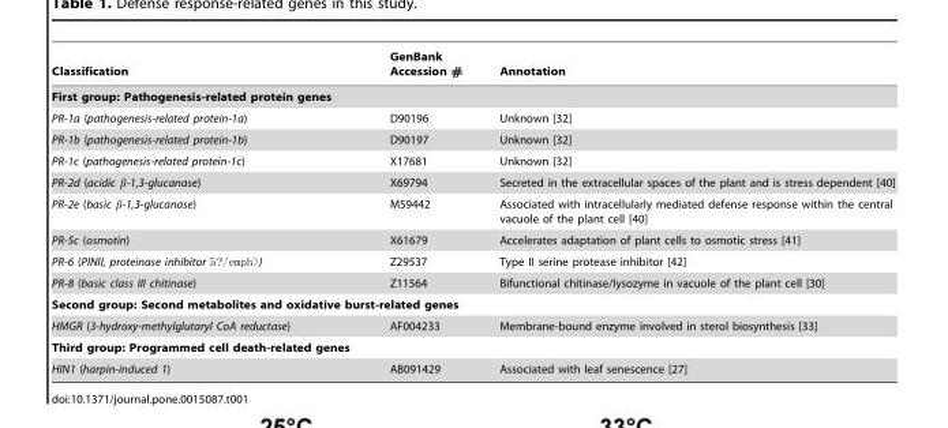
<table><thead><tr><td>Classification</td><td>GenBank Accession #</td><td>Annotation</td></tr></thead><tbody><tr><td colspan="3">First group: Pathogenesis-related protein genes</td></tr><tr><td>PR-1a (pathogenesis-related protein-1a)</td><td>D90196</td><td>Unknown [32]</td></tr><tr><td>PR-1b (pathogenesis-related protein-1b)</td><td>D90197</td><td>Unknown [32]</td></tr><tr><td>PR-1c (pathogenesis-related protein-1c)</td><td>X17681</td><td>Unknown [32]</td></tr><tr><td>PR-2d (acidic β-1,3-glucanase)</td><td>X69794</td><td>Secreted in the extracellular spaces of the plant and is stress dependent [40]</td></tr><tr><td>PR-2e (basic β-1,3-glucanase)</td><td>M59442</td><td>Associated with intracellularly mediated defense response within the central vacuole of the plant cell [40]</td></tr><tr><td>PR-5c (osmotin)</td><td>X61679</td><td>Accelerates adaptation of plant cells to osmotic stress [41]</td></tr><tr><td>PR-6 (PINII, proteinase inhibitor a˜?/emph&gt;)</td><td>Z29537</td><td>Type II serine protease inhibitor [42]</td></tr><tr><td>PR-8 (basic class III chitinase)</td><td>Z11564</td><td>Bifunctional chitinase/lysozyme in vacuole of the plant cell [30]</td></tr><tr><td colspan="3">Second group: Second metabolites and oxidative burst-related genes</td></tr><tr><td>HMGR (3-hydroxy-methylglutaryl CoA reductase)</td><td>AF004233</td><td>Membrane-bound enzyme involved in sterol biosynthesis [33]</td></tr><tr><td colspan="3">Third group: Programmed cell death-related genes</td></tr><tr><td>HIN1 (harpin-induced 1)</td><td>AB091429</td><td>Associated with leaf senescence [27]</td></tr></tbody></table>